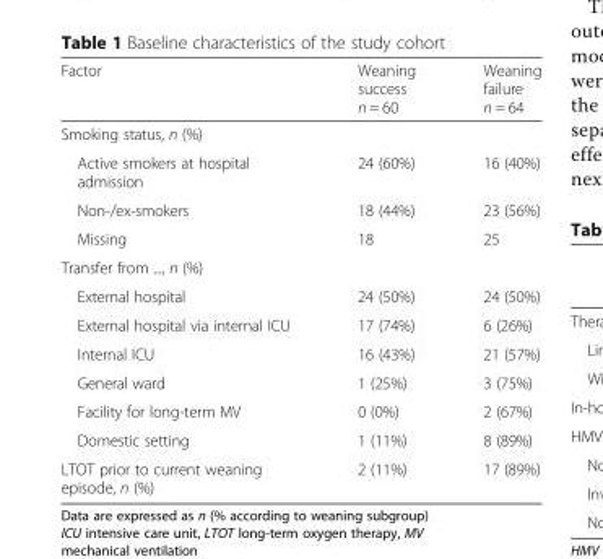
<table><thead><tr><td>Factor</td><td>Weaning success n = 60</td><td>Weaning failure n = 64</td></tr></thead><tbody><tr><td colspan="3">Smoking status, n (%)</td></tr><tr><td>Active smokers at hospital admission</td><td>24 (60%)</td><td>16 (40%)</td></tr><tr><td>Non-/ex-smokers</td><td>18 (44%)</td><td>23 (56%)</td></tr><tr><td>Missing</td><td>18</td><td>25</td></tr><tr><td colspan="3">Transfer from ..., n (%)</td></tr><tr><td>External hospital</td><td>24 (50%)</td><td>24 (50%)</td></tr><tr><td>External hospital via internal ICU</td><td>17 (74%)</td><td>6 (26%)</td></tr><tr><td>Internal ICU</td><td>16 (43%)</td><td>21 (57%)</td></tr><tr><td>General ward</td><td>1 (25%)</td><td>3 (75%)</td></tr><tr><td>Facility for long-term MV</td><td>0 (0%)</td><td>2 (67%)</td></tr><tr><td>Domestic setting</td><td>1 (11%)</td><td>8 (89%)</td></tr><tr><td>LTOT prior to current weaning episode, n (%)</td><td>2 (11%)</td><td>17 (89%)</td></tr></tbody></table>